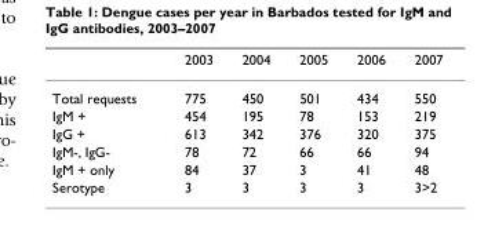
<table><thead><tr><td></td><td>2003</td><td>2004</td><td>2005</td><td>2006</td><td>2007</td></tr></thead><tbody><tr><td>Total requests</td><td>775</td><td>450</td><td>501</td><td>434</td><td>550</td></tr><tr><td>IgM +</td><td>454</td><td>195</td><td>78</td><td>153</td><td>219</td></tr><tr><td>IgG +</td><td>613</td><td>342</td><td>376</td><td>320</td><td>375</td></tr><tr><td>IgM-, IgG-</td><td>78</td><td>72</td><td>66</td><td>66</td><td>94</td></tr><tr><td>IgM + only</td><td>84</td><td>37</td><td>3</td><td>41</td><td>48</td></tr><tr><td>Serotype</td><td>3</td><td>3</td><td>3</td><td>3</td><td>3&gt;2</td></tr></tbody></table>